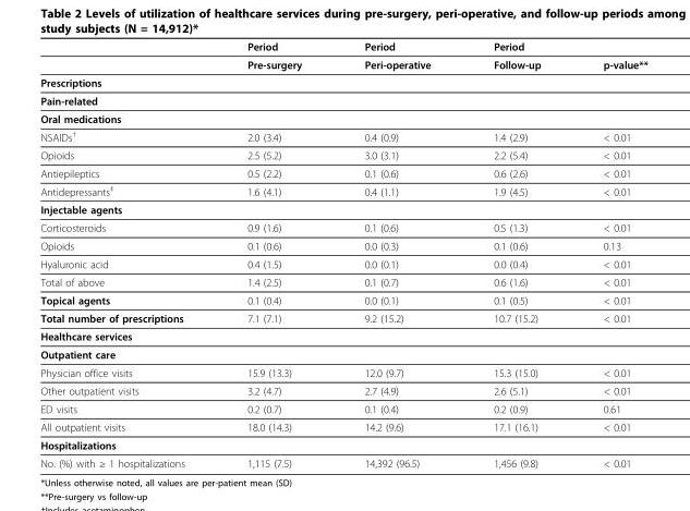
<table><thead><tr><td></td><td>Period</td><td>Period</td><td>Period</td><td></td></tr></thead><tbody><tr><td></td><td>Pre-surgery</td><td>Peri-operative</td><td>Follow-up</td><td>p-value**</td></tr><tr><td colspan="5">Prescriptions</td></tr><tr><td colspan="5">Pain-related</td></tr><tr><td colspan="5">Oral medications</td></tr><tr><td>NSAIDs<sup>†</sup></td><td>2.0 (3.4)</td><td>0.4 (0.9)</td><td>1.4 (2.9)</td><td>&lt; 0.01</td></tr><tr><td>Opioids</td><td>2.5 (5.2)</td><td>3.0 (3.1)</td><td>2.2 (5.4)</td><td>&lt; 0.01</td></tr><tr><td>Antiepileptics</td><td>0.5 (2.2)</td><td>0.1 (0.6)</td><td>0.6 (2.6)</td><td>&lt; 0.01</td></tr><tr><td>Antidepressants<sup>‡</sup></td><td>1.6 (4.1)</td><td>0.4 (1.1)</td><td>1.9 (4.5)</td><td>&lt; 0.01</td></tr><tr><td colspan="5">Injectable agents</td></tr><tr><td>Corticosteroids</td><td>0.9 (1.6)</td><td>0.1 (0.6)</td><td>0.5 (1.3)</td><td>&lt; 0.01</td></tr><tr><td>Opioids</td><td>0.1 (0.6)</td><td>0.0 (0.3)</td><td>0.1 (0.6)</td><td>0.13</td></tr><tr><td>Hyaluronic acid</td><td>0.4 (1.5)</td><td>0.0 (0.1)</td><td>0.0 (0.4)</td><td>&lt; 0.01</td></tr><tr><td>Total of above</td><td>1.4 (2.5)</td><td>0.1 (0.7)</td><td>0.6 (1.6)</td><td>&lt; 0.01</td></tr><tr><td>Topical agents</td><td>0.1 (0.4)</td><td>0.0 (0.1)</td><td>0.1 (0.5)</td><td>&lt; 0.01</td></tr><tr><td>Total number of prescriptions</td><td>7.1 (7.1)</td><td>9.2 (15.2)</td><td>10.7 (15.2)</td><td>&lt; 0.01</td></tr><tr><td colspan="5">Healthcare services</td></tr><tr><td colspan="5">Outpatient care</td></tr><tr><td>Physician office visits</td><td>15.9 (13.3)</td><td>12.0 (9.7)</td><td>15.3 (15.0)</td><td>&lt; 0.01</td></tr><tr><td>Other outpatient visits</td><td>3.2 (4.7)</td><td>2.7 (4.9)</td><td>2.6 (5.1)</td><td>&lt; 0.01</td></tr><tr><td>ED visits</td><td>0.2 (0.7)</td><td>0.1 (0.4)</td><td>0.2 (0.9)</td><td>0.61</td></tr><tr><td>All outpatient visits</td><td>18.0 (14.3)</td><td>14.2 (9.6)</td><td>17.1 (16.1)</td><td>&lt; 0.01</td></tr><tr><td colspan="5">Hospitalizations</td></tr><tr><td>No. (%) with ≥ 1 hospitalizations</td><td>1,115 (7.5)</td><td>14,392 (96.5)</td><td>1,456 (9.8)</td><td>&lt; 0.01</td></tr></tbody></table>